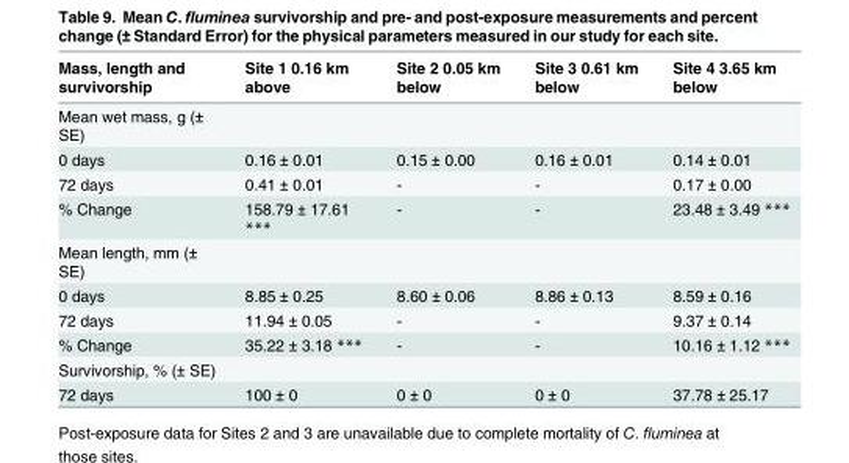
<table><thead><tr><td>Mass, length and survivorship</td><td>Site 1 0.16 km above</td><td>Site 2 0.05 km below</td><td>Site 3 0.61 km below</td><td>Site 4 3.65 km below</td></tr></thead><tbody><tr><td colspan="5">Mean wet mass, g (± SE)</td></tr><tr><td>0 days</td><td>0.16 ± 0.01</td><td>0.15 ± 0.00</td><td>0.16 ± 0.01</td><td>0.14 ± 0.01</td></tr><tr><td>72 days</td><td>0.41 ± 0.01</td><td>-</td><td>-</td><td>0.17 ± 0.00</td></tr><tr><td>% Change</td><td>158.79 ± 17.61 ***</td><td>-</td><td>-</td><td>23.48 ± 3.49 ***</td></tr><tr><td colspan="5">Mean length, mm (± SE)</td></tr><tr><td>0 days</td><td>8.85 ± 0.25</td><td>8.60 ± 0.06</td><td>8.86 ± 0.13</td><td>8.59 ± 0.16</td></tr><tr><td>72 days</td><td>11.94 ± 0.05</td><td>-</td><td>-</td><td>9.37 ± 0.14</td></tr><tr><td>% Change</td><td>35.22 ± 3.18 ***</td><td>-</td><td>-</td><td>10.16 ± 1.12 ***</td></tr><tr><td colspan="5">Survivorship, % (± SE)</td></tr><tr><td>72 days</td><td>100 ± 0</td><td>0 ± 0</td><td>0 ± 0</td><td>37.78 ± 25.17</td></tr></tbody></table>